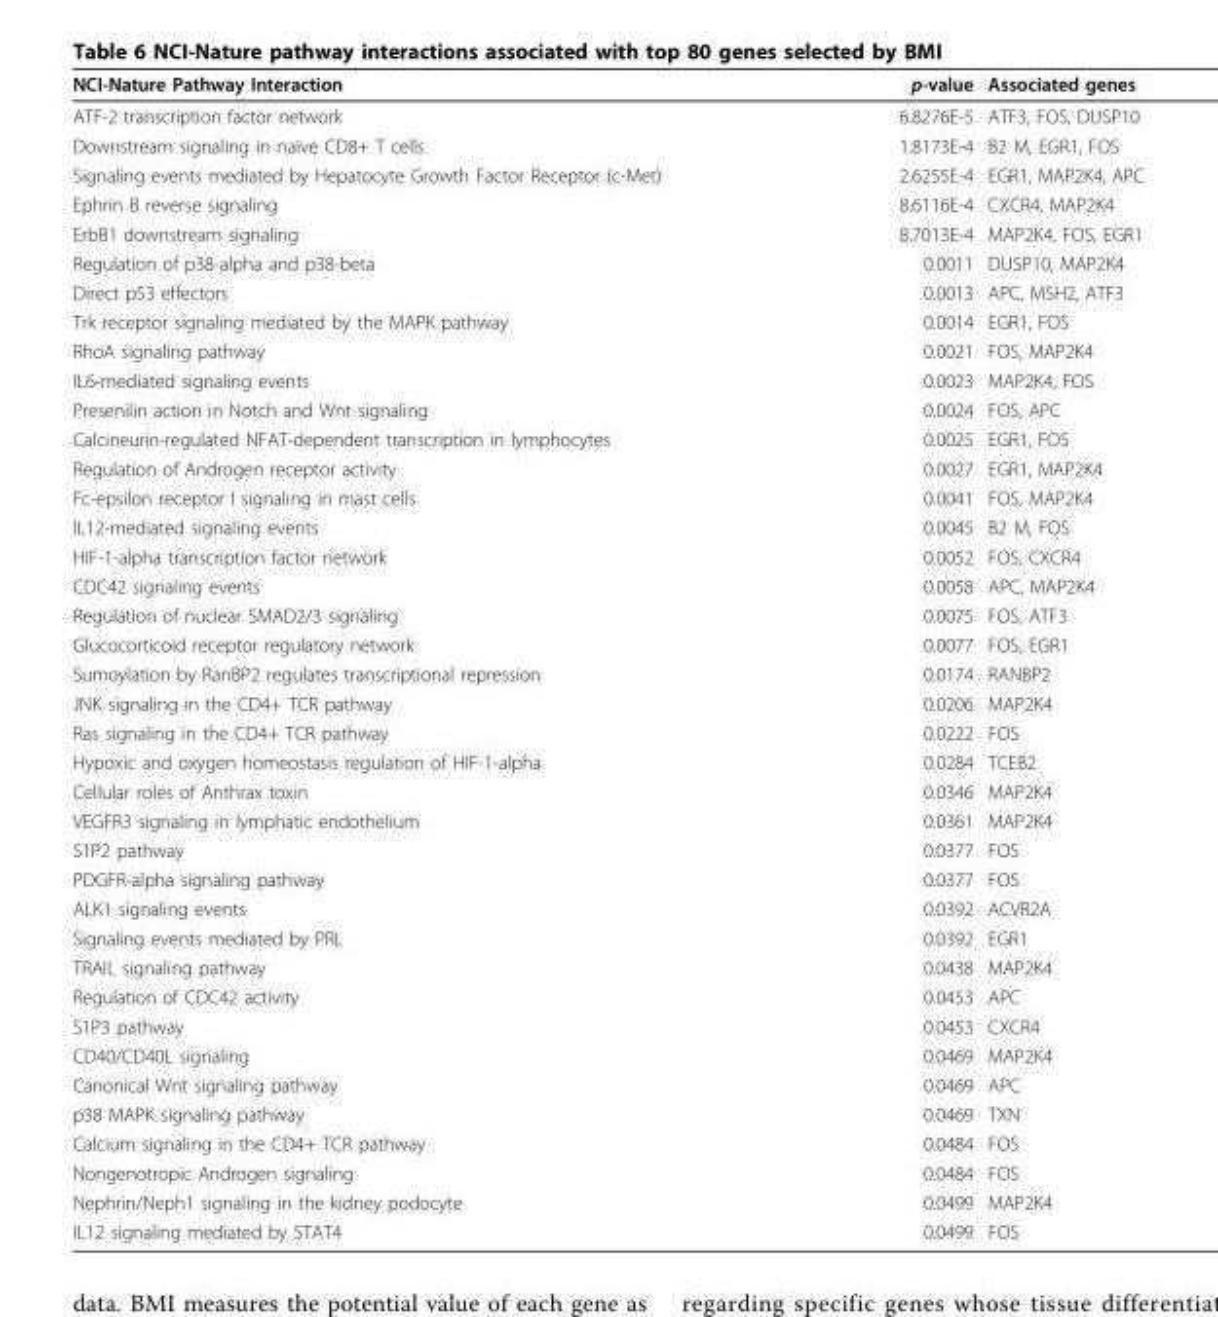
<table><thead><tr><td>NCI-Nature Pathway Interaction</td><td>p-value</td><td>Associated genes</td></tr></thead><tbody><tr><td>ATF-2 transcription factor network</td><td>6.8276E-5</td><td>ATF3, FOS, DUSP10</td></tr><tr><td>Downstream signaling in naïve CD8+ T cells</td><td>1.8173E-4</td><td>B2 M, EGR1, FOS</td></tr><tr><td>Signaling events mediated by Hepatocyte Growth Factor Receptor (c-Met)</td><td>2.6255E-4</td><td>EGR1, MAP2K4, APC</td></tr><tr><td>Ephrin B reverse signaling</td><td>8.6116E-4</td><td>CXCR4, MAP2K4</td></tr><tr><td>ErbB1 downstream signaling</td><td>8.7013E-4</td><td>MAP2K4, FOS, EGR1</td></tr><tr><td>Regulation of p38-alpha and p38-beta</td><td>0.0011</td><td>DUSP10, MAP2K4</td></tr><tr><td>Direct p53 effectors</td><td>0.0013</td><td>APC, MSH2, ATF3</td></tr><tr><td>Trk receptor signaling mediated by the MAPK pathway</td><td>0.0014</td><td>EGR1, FOS</td></tr><tr><td>RhoA signaling pathway</td><td>0.0021</td><td>FOS, MAP2K4</td></tr><tr><td>IL6-mediated signaling events</td><td>0.0023</td><td>MAP2K4, FOS</td></tr><tr><td>Presenilin action in Notch and Wnt signaling</td><td>0.0024</td><td>FOS, APC</td></tr><tr><td>Calcineurin-regulated NFAT-dependent transcription in lymphocytes</td><td>0.0025</td><td>EGR1, FOS</td></tr><tr><td>Regulation of Androgen receptor activity</td><td>0.0027</td><td>EGR1, MAP2K4</td></tr><tr><td>Fc-epsilon receptor I signaling in mast cells</td><td>0.0041</td><td>FOS, MAP2K4</td></tr><tr><td>IL12-mediated signaling events</td><td>0.0045</td><td>B2 M, FOS</td></tr><tr><td>HIF-1-alpha transcription factor network</td><td>0.0052</td><td>FOS, CXCR4</td></tr><tr><td>CDC42 signaling events</td><td>0.0058</td><td>APC, MAP2K4</td></tr><tr><td>Regulation of nuclear SMAD2/3 signaling</td><td>0.0075</td><td>FOS, ATF3</td></tr><tr><td>Glucocorticoid receptor regulatory network</td><td>0.0077</td><td>FOS, EGR1</td></tr><tr><td>Sumoylation by RanBP2 regulates transcriptional repression</td><td>0.0174</td><td>RANBP2</td></tr><tr><td>JNK signaling in the CD4+ TCR pathway</td><td>0.0206</td><td>MAP2K4</td></tr><tr><td>Ras signaling in the CD4+ TCR pathway</td><td>0.0222</td><td>FOS</td></tr><tr><td>Hypoxic and oxygen homeostasis regulation of HIF-1-alpha</td><td>0.0284</td><td>TCEB2</td></tr><tr><td>Cellular roles of Anthrax toxin</td><td>0.0346</td><td>MAP2K4</td></tr><tr><td>VEGFR3 signaling in lymphatic endothelium</td><td>0.0361</td><td>MAP2K4</td></tr><tr><td>S1P2 pathway</td><td>0.0377</td><td>FOS</td></tr><tr><td>PDGFR-alpha signaling pathway</td><td>0.0377</td><td>FOS</td></tr><tr><td>ALK1 signaling events</td><td>0.0392</td><td>ACVR2A</td></tr><tr><td>Signaling events mediated by PRL</td><td>0.0392</td><td>EGR1</td></tr><tr><td>TRAIL signaling pathway</td><td>0.0438</td><td>MAP2K4</td></tr><tr><td>Regulation of CDC42 activity</td><td>0.0453</td><td>APC</td></tr><tr><td>S1P3 pathway</td><td>0.0453</td><td>CXCR4</td></tr><tr><td>CD40/CD40L signaling</td><td>0.0469</td><td>MAP2K4</td></tr><tr><td>Canonical Wnt signaling pathway</td><td>0.0469</td><td>APC</td></tr><tr><td>p38 MAPK signaling pathway</td><td>0.0469</td><td>TXN</td></tr><tr><td>Calcium signaling in the CD4+ TCR pathway</td><td>0.0484</td><td>FOS</td></tr><tr><td>Nongenotropic Androgen signaling</td><td>0.0484</td><td>FOS</td></tr><tr><td>Nephrin/Neph1 signaling in the kidney podocyte</td><td>0.0499</td><td>MAP2K4</td></tr><tr><td>IL12 signaling mediated by STAT4</td><td>0.0499</td><td>FOS</td></tr></tbody></table>